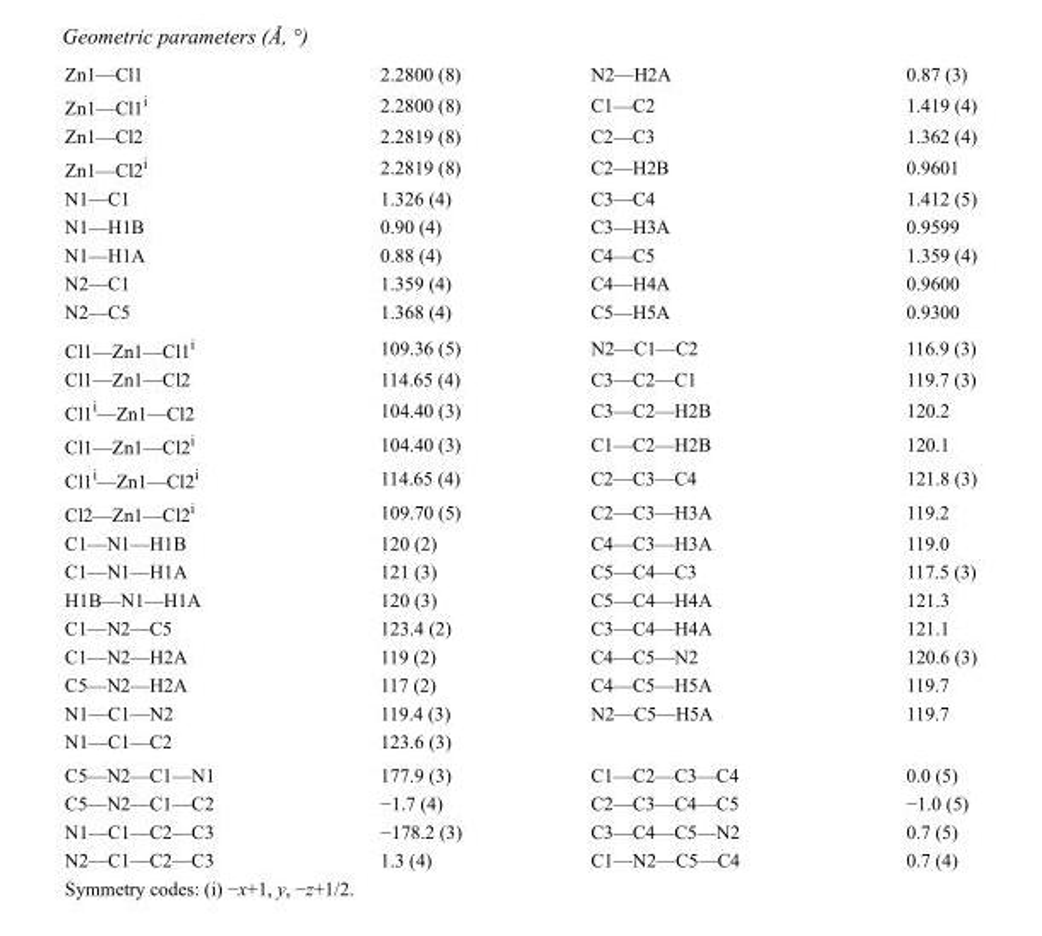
<table><tbody><tr><td>Zn1—Cl1</td><td>2.2800 (8)</td><td>N2—H2A</td><td>0.87 (3)</td></tr><tr><td>Zn1—Cl1<sup>i</sup></td><td>2.2800 (8)</td><td>C1—C2</td><td>1.419 (4)</td></tr><tr><td>Zn1—Cl2</td><td>2.2819 (8)</td><td>C2—C3</td><td>1.362 (4)</td></tr><tr><td>Zn1—Cl2<sup>i</sup></td><td>2.2819 (8)</td><td>C2—H2B</td><td>0.9601</td></tr><tr><td>N1—C1</td><td>1.326 (4)</td><td>C3—C4</td><td>1.412 (5)</td></tr><tr><td>N1—H1B</td><td>0.90 (4)</td><td>C3—H3A</td><td>0.9599</td></tr><tr><td>N1—H1A</td><td>0.88 (4)</td><td>C4—C5</td><td>1.359 (4)</td></tr><tr><td>N2—C1</td><td>1.359 (4)</td><td>C4—H4A</td><td>0.9600</td></tr><tr><td>N2—C5</td><td>1.368 (4)</td><td>C5—H5A</td><td>0.9300</td></tr><tr><td>Cl1—Zn1—Cl1<sup>i</sup></td><td>109.36 (5)</td><td>N2—C1—C2</td><td>116.9 (3)</td></tr><tr><td>Cl1—Zn1—Cl2</td><td>114.65 (4)</td><td>C3—C2—C1</td><td>119.7 (3)</td></tr><tr><td>Cl1<sup>i</sup>—Zn1—Cl2</td><td>104.40 (3)</td><td>C3—C2—H2B</td><td>120.2</td></tr><tr><td>Cl1—Zn1—Cl2<sup>i</sup></td><td>104.40 (3)</td><td>C1—C2—H2B</td><td>120.1</td></tr><tr><td>Cl1<sup>i</sup>—Zn1—Cl2<sup>i</sup></td><td>114.65 (4)</td><td>C2—C3—C4</td><td>121.8 (3)</td></tr><tr><td>Cl2—Zn1—Cl2<sup>i</sup></td><td>109.70 (5)</td><td>C2—C3—H3A</td><td>119.2</td></tr><tr><td>C1—N1—H1B</td><td>120 (2)</td><td>C4—C3—H3A</td><td>119.0</td></tr><tr><td>C1—N1—H1A</td><td>121 (3)</td><td>C5—C4—C3</td><td>117.5 (3)</td></tr><tr><td>H1B—N1—H1A</td><td>120 (3)</td><td>C5—C4—H4A</td><td>121.3</td></tr><tr><td>C1—N2—C5</td><td>123.4 (2)</td><td>C3—C4—H4A</td><td>121.1</td></tr><tr><td>C1—N2—H2A</td><td>119 (2)</td><td>C4—C5—N2</td><td>120.6 (3)</td></tr><tr><td>C5—N2—H2A</td><td>117 (2)</td><td>C4—C5—H5A</td><td>119.7</td></tr><tr><td>N1—C1—N2</td><td>119.4 (3)</td><td>N2—C5—H5A</td><td>119.7</td></tr><tr><td>N1—C1—C2</td><td>123.6 (3)</td><td></td><td></td></tr><tr><td>C5—N2—C1—N1</td><td>177.9 (3)</td><td>C1—C2—C3—C4</td><td>0.0 (5)</td></tr><tr><td>C5—N2—C1—C2</td><td>−1.7 (4)</td><td>C2—C3—C4—C5</td><td>−1.0 (5)</td></tr><tr><td>N1—C1—C2—C3</td><td>−178.2 (3)</td><td>C3—C4—C5—N2</td><td>0.7 (5)</td></tr><tr><td>N2—C1—C2—C3</td><td>1.3 (4)</td><td>C1—N2—C5—C4</td><td>0.7 (4)</td></tr></tbody></table>